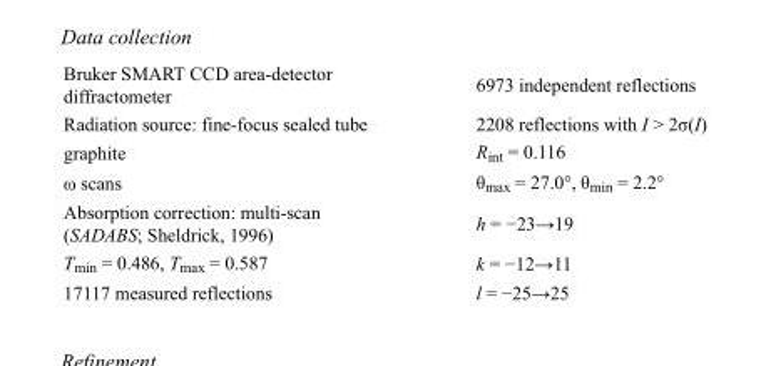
<table><tbody><tr><td>Bruker SMART CCD area-detector diffractometer</td><td>6973 independent reflections</td></tr><tr><td>Radiation source: fine-focus sealed tube</td><td>2208 reflections with I &gt; 2σ(I)</td></tr><tr><td>graphite</td><td>R<sub>int</sub> = 0.116</td></tr><tr><td>ω scans</td><td>θ<sub>max</sub> = 27.0°, θ<sub>min</sub> = 2.2°</td></tr><tr><td>Absorption correction: multi-scan (SADABS; Sheldrick, 1996)</td><td>h = −23→19</td></tr><tr><td>T<sub>min</sub> = 0.486, T<sub>max</sub> = 0.587</td><td>k = −12→11</td></tr><tr><td>17117 measured reflections</td><td>l = −25→25</td></tr></tbody></table>